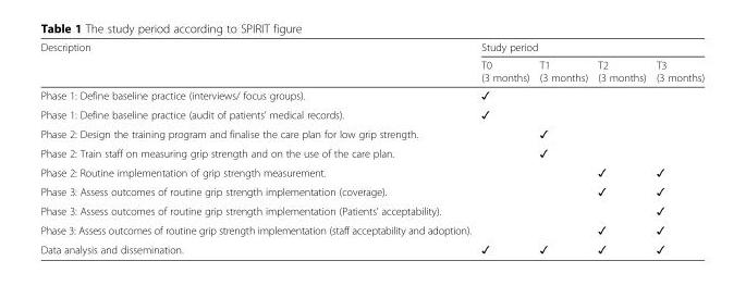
<table><thead><tr><td rowspan="2">Description</td><td colspan="4">Study period</td></tr><tr><td>T0 (3 months)</td><td>T1 (3 months)</td><td>T2 (3 months)</td><td>T3 (3 months)</td></tr></thead><tbody><tr><td>Phase 1: Define baseline practice (interviews/ focus groups).</td><td>✓</td><td></td><td></td><td></td></tr><tr><td>Phase 1: Define baseline practice (audit of patients’ medical records).</td><td>✓</td><td></td><td></td><td></td></tr><tr><td>Phase 2: Design the training program and finalise the care plan for low grip strength.</td><td></td><td>✓</td><td></td><td></td></tr><tr><td>Phase 2: Train staff on measuring grip strength and on the use of the care plan.</td><td></td><td>✓</td><td></td><td></td></tr><tr><td>Phase 2: Routine implementation of grip strength measurement.</td><td></td><td></td><td>✓</td><td>✓</td></tr><tr><td>Phase 3: Assess outcomes of routine grip strength implementation (coverage).</td><td></td><td></td><td>✓</td><td>✓</td></tr><tr><td>Phase 3: Assess outcomes of routine grip strength implementation (Patients’ acceptability).</td><td></td><td></td><td></td><td>✓</td></tr><tr><td>Phase 3: Assess outcomes of routine grip strength implementation (staff acceptability and adoption).</td><td></td><td></td><td>✓</td><td>✓</td></tr><tr><td>Data analysis and dissemination.</td><td>✓</td><td>✓</td><td>✓</td><td>✓</td></tr></tbody></table>